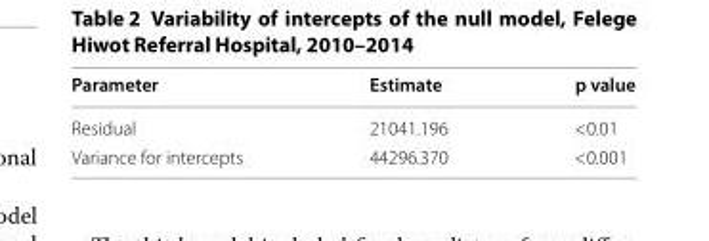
<table><thead><tr><td>Parameter</td><td>Estimate</td><td>p value</td></tr></thead><tbody><tr><td>Residual</td><td>21041.196</td><td>&lt;0.01</td></tr><tr><td>Variance for intercepts</td><td>44296.370</td><td>&lt;0.001</td></tr></tbody></table>